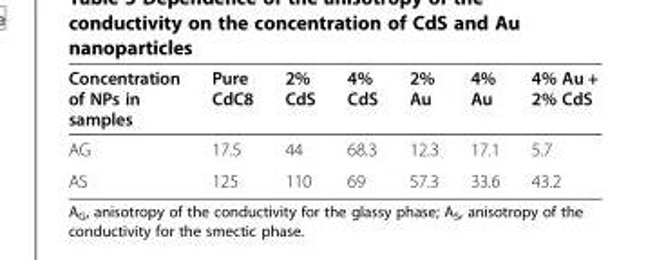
<table><thead><tr><td>Concentration of NPs in samples</td><td>Pure CdC8</td><td>2% CdS</td><td>4% CdS</td><td>2% Au</td><td>4% Au</td><td>4% Au + 2% CdS</td></tr></thead><tbody><tr><td>AG</td><td>17.5</td><td>44</td><td>68.3</td><td>12.3</td><td>17.1</td><td>5.7</td></tr><tr><td>AS</td><td>125</td><td>110</td><td>69</td><td>57.3</td><td>33.6</td><td>43.2</td></tr></tbody></table>